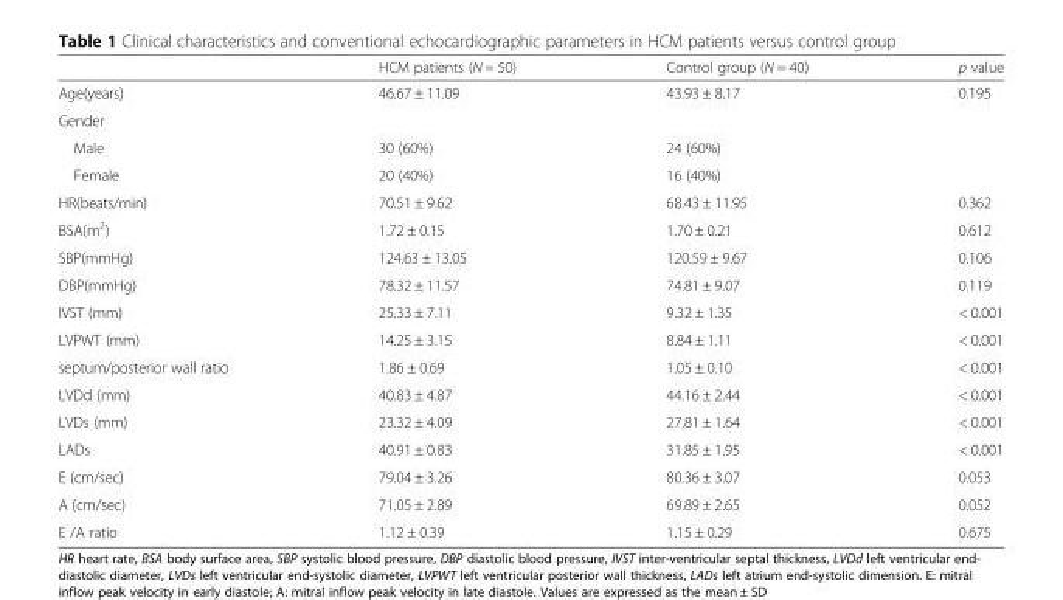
<table><thead><tr><td></td><td>HCM patients (N = 50)</td><td>Control group (N = 40)</td><td>p value</td></tr></thead><tbody><tr><td>Age(years)</td><td>46.67 ± 11.09</td><td>43.93 ± 8.17</td><td>0.195</td></tr><tr><td colspan="4">Gender</td></tr><tr><td>Male</td><td>30 (60%)</td><td>24 (60%)</td><td></td></tr><tr><td>Female</td><td>20 (40%)</td><td>16 (40%)</td><td></td></tr><tr><td>HR(beats/min)</td><td>70.51 ± 9.62</td><td>68.43 ± 11.95</td><td>0.362</td></tr><tr><td>BSA(m<sup>2</sup>)</td><td>1.72 ± 0.15</td><td>1.70 ± 0.21</td><td>0.612</td></tr><tr><td>SBP(mmHg)</td><td>124.63 ± 13.05</td><td>120.59 ± 9.67</td><td>0.106</td></tr><tr><td>DBP(mmHg)</td><td>78.32 ± 11.57</td><td>74.81 ± 9.07</td><td>0.119</td></tr><tr><td>IVST (mm)</td><td>25.33 ± 7.11</td><td>9.32 ± 1.35</td><td>&lt; 0.001</td></tr><tr><td>LVPWT (mm)</td><td>14.25 ± 3.15</td><td>8.84 ± 1.11</td><td>&lt; 0.001</td></tr><tr><td>septum/posterior wall ratio</td><td>1.86 ± 0.69</td><td>1.05 ± 0.10</td><td>&lt; 0.001</td></tr><tr><td>LVDd (mm)</td><td>40.83 ± 4.87</td><td>44.16 ± 2.44</td><td>&lt; 0.001</td></tr><tr><td>LVDs (mm)</td><td>23.32 ± 4.09</td><td>27.81 ± 1.64</td><td>&lt; 0.001</td></tr><tr><td>LADs</td><td>40.91 ± 0.83</td><td>31.85 ± 1.95</td><td>&lt; 0.001</td></tr><tr><td>E (cm/sec)</td><td>79.04 ± 3.26</td><td>80.36 ± 3.07</td><td>0.053</td></tr><tr><td>A (cm/sec)</td><td>71.05 ± 2.89</td><td>69.89 ± 2.65</td><td>0.052</td></tr><tr><td>E /A ratio</td><td>1.12 ± 0.39</td><td>1.15 ± 0.29</td><td>0.675</td></tr></tbody></table>